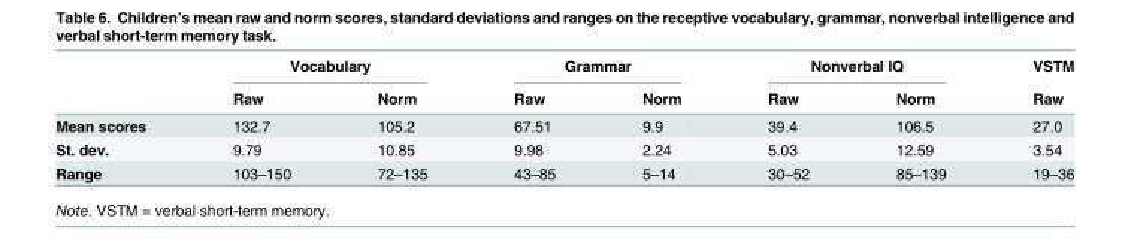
<table><thead><tr><td rowspan="2"></td><td colspan="2">Vocabulary</td><td colspan="2">Grammar</td><td colspan="2">Nonverbal IQ</td><td rowspan="2">VSTM Raw</td></tr><tr><td>Raw</td><td>Norm</td><td>Raw</td><td>Norm</td><td>Raw</td><td>Norm</td></tr></thead><tbody><tr><td>Mean scores</td><td>132.7</td><td>105.2</td><td>67.51</td><td>9.9</td><td>39.4</td><td>106.5</td><td>27.0</td></tr><tr><td>St. dev.</td><td>9.79</td><td>10.85</td><td>9.98</td><td>2.24</td><td>5.03</td><td>12.59</td><td>3.54</td></tr><tr><td>Range</td><td>103–150</td><td>72–135</td><td>43–85</td><td>5–14</td><td>30–52</td><td>85–139</td><td>19–36</td></tr></tbody></table>